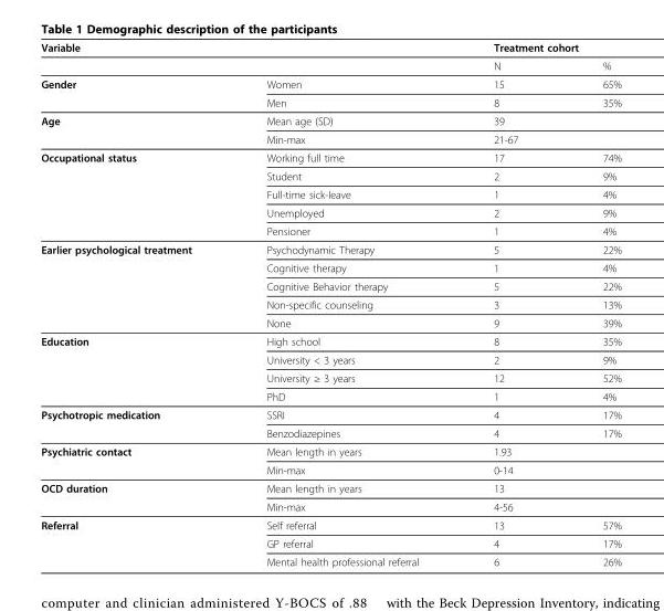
<table><thead><tr><td colspan="2">Variable</td><td colspan="2">Treatment cohort</td></tr><tr><td></td><td></td><td>N</td><td>%</td></tr></thead><tbody><tr><td rowspan="2">Gender</td><td>Women</td><td>15</td><td>65%</td></tr><tr><td>Men</td><td>8</td><td>35%</td></tr><tr><td rowspan="2">Age</td><td>Mean age (SD)</td><td>39</td><td></td></tr><tr><td>Min-max</td><td colspan="2">21-67</td></tr><tr><td rowspan="5">Occupational status</td><td>Working full time</td><td>17</td><td>74%</td></tr><tr><td>Student</td><td>2</td><td>9%</td></tr><tr><td>Full-time sick-leave</td><td>1</td><td>4%</td></tr><tr><td>Unemployed</td><td>2</td><td>9%</td></tr><tr><td>Pensioner</td><td>1</td><td>4%</td></tr><tr><td rowspan="5">Earlier psychological treatment</td><td>Psychodynamic Therapy</td><td>5</td><td>22%</td></tr><tr><td>Cognitive therapy</td><td>1</td><td>4%</td></tr><tr><td>Cognitive Behavior therapy</td><td>5</td><td>22%</td></tr><tr><td>Non-specific counseling</td><td>3</td><td>13%</td></tr><tr><td>None</td><td>9</td><td>39%</td></tr><tr><td rowspan="4">Education</td><td>High school</td><td>8</td><td>35%</td></tr><tr><td>University &lt; 3 years</td><td>2</td><td>9%</td></tr><tr><td>University ≥ 3 years</td><td>12</td><td>52%</td></tr><tr><td>PhD</td><td>1</td><td>4%</td></tr><tr><td rowspan="2">Psychotropic medication</td><td>SSRI</td><td>4</td><td>17%</td></tr><tr><td>Benzodiazepines</td><td>4</td><td>17%</td></tr><tr><td rowspan="2">Psychiatric contact</td><td>Mean length in years</td><td colspan="2">1.93</td></tr><tr><td>Min-max</td><td colspan="2">0-14</td></tr><tr><td rowspan="2">OCD duration</td><td>Mean length in years</td><td colspan="2">13</td></tr><tr><td>Min-max</td><td colspan="2">4-56</td></tr><tr><td rowspan="3">Referral</td><td>Self referral</td><td>13</td><td>57%</td></tr><tr><td>GP referral</td><td>4</td><td>17%</td></tr><tr><td>Mental health professional referral</td><td>6</td><td>26%</td></tr></tbody></table>